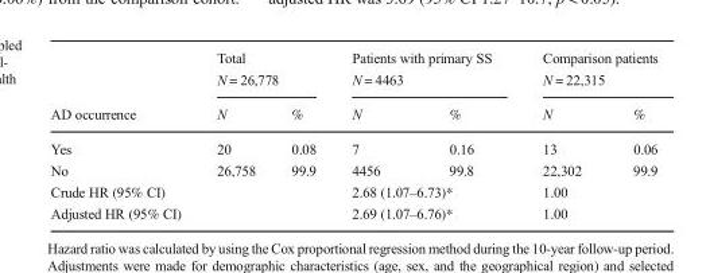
<table><thead><tr><td rowspan="2">AD occurrence</td><td colspan="2">Total N = 26,778</td><td colspan="2">Patients with primary SS N = 4463</td><td colspan="2">Comparison patients N = 22,315</td></tr><tr><td>N</td><td>%</td><td>N</td><td>%</td><td>N</td><td>%</td></tr></thead><tbody><tr><td>Yes</td><td>20</td><td>0.08</td><td>7</td><td>0.16</td><td>13</td><td>0.06</td></tr><tr><td>No</td><td>26,758</td><td>99.9</td><td>4456</td><td>99.8</td><td>22,302</td><td>99.9</td></tr><tr><td>Crude HR (95% CI)</td><td colspan="2"></td><td colspan="2">2.68 (1.07–6.73)*</td><td colspan="2">1.00</td></tr><tr><td>Adjusted HR (95% CI)</td><td colspan="2"></td><td colspan="2">2.69 (1.07–6.76)*</td><td colspan="2">1.00</td></tr></tbody></table>